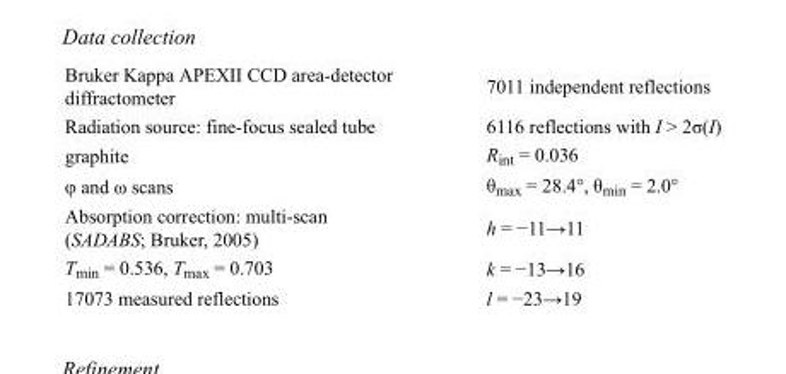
<table><tbody><tr><td>Bruker Kappa APEXII CCD area-detector diffractometer</td><td>7011 independent reflections</td></tr><tr><td>Radiation source: fine-focus sealed tube</td><td>6116 reflections with I &gt; 2σ(I)</td></tr><tr><td>graphite</td><td>R<sub>int</sub> = 0.036</td></tr><tr><td>φ and ω scans</td><td>θ<sub>max</sub> = 28.4°, θ<sub>min</sub> = 2.0°</td></tr><tr><td>Absorption correction: multi-scan (SADABS; Bruker, 2005)</td><td>h = −11→11</td></tr><tr><td>T<sub>min</sub> = 0.536, T<sub>max</sub> = 0.703</td><td>k = −13→16</td></tr><tr><td>17073 measured reflections</td><td>l = −23→19</td></tr></tbody></table>